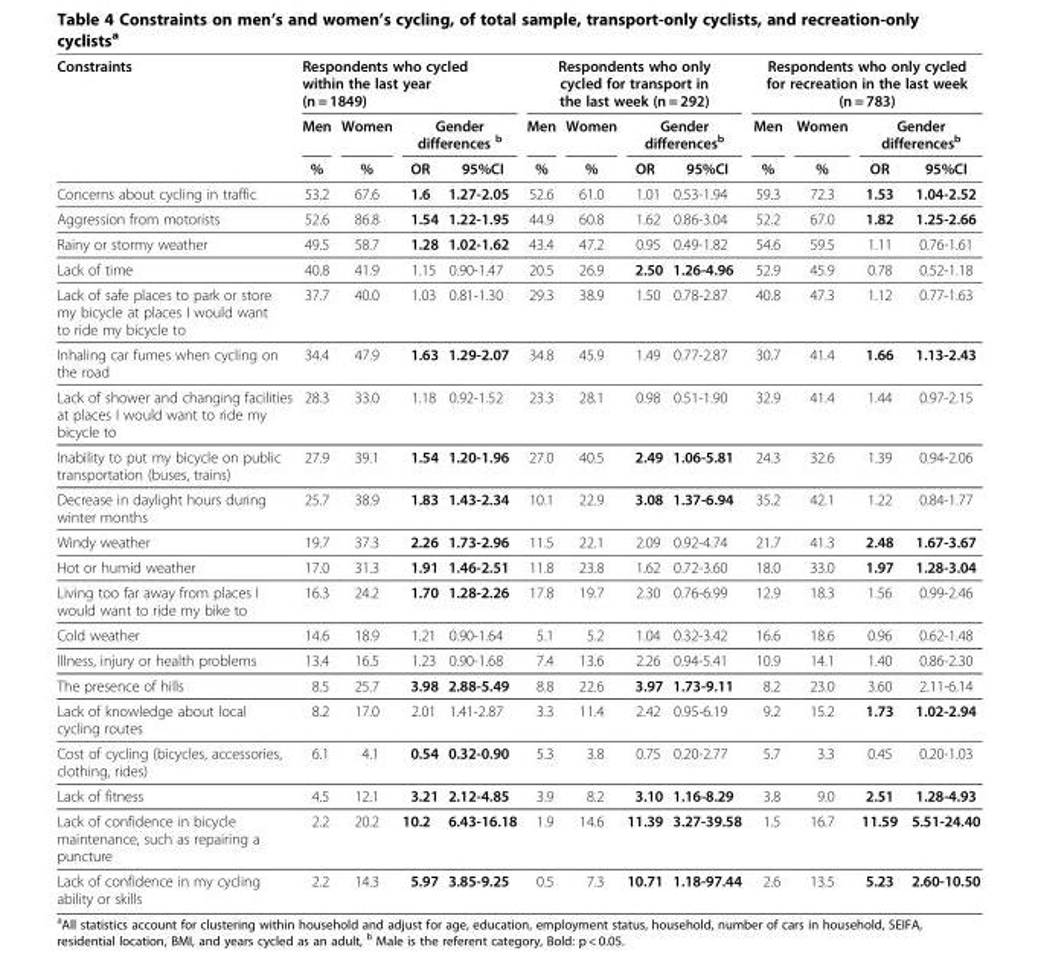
<table><thead><tr><td rowspan="3">Constraints</td><td colspan="4">Respondents who cycled within the last year (n = 1849)</td><td rowspan="3">Men %</td><td colspan="3">Respondents who only cycled for transport in the last week (n = 292)</td><td colspan="4">Respondents who only cycled for recreation in the last week (n = 783)</td></tr><tr><td rowspan="2">Men %</td><td rowspan="2">Women %</td><td colspan="2">Gender differences <sup>b</sup></td><td rowspan="2">Women %</td><td colspan="2">Gender differences<sup>b</sup></td><td rowspan="2">Men %</td><td rowspan="2">Women %</td><td colspan="2">Gender differences<sup>b</sup></td></tr><tr><td>OR</td><td>95%CI</td><td>OR</td><td>95%CI</td><td>OR</td><td>95%CI</td></tr></thead><tbody><tr><td>Concerns about cycling in traffic</td><td>53.2</td><td>67.6</td><td>1.6</td><td>1.27-2.05</td><td>52.6</td><td>61.0</td><td>1.01</td><td>0.53-1.94</td><td>59.3</td><td>72.3</td><td>1.53</td><td>1.04-2.52</td></tr><tr><td>Aggression from motorists</td><td>52.6</td><td>86.8</td><td>1.54</td><td>1.22-1.95</td><td>44.9</td><td>60.8</td><td>1.62</td><td>0.86-3.04</td><td>52.2</td><td>67.0</td><td>1.82</td><td>1.25-2.66</td></tr><tr><td>Rainy or stormy weather</td><td>49.5</td><td>58.7</td><td>1.28</td><td>1.02-1.62</td><td>43.4</td><td>47.2</td><td>0.95</td><td>0.49-1.82</td><td>54.6</td><td>59.5</td><td>1.11</td><td>0.76-1.61</td></tr><tr><td>Lack of time</td><td>40.8</td><td>41.9</td><td>1.15</td><td>0.90-1.47</td><td>20.5</td><td>26.9</td><td>2.50</td><td>1.26-4.96</td><td>52.9</td><td>45.9</td><td>0.78</td><td>0.52-1.18</td></tr><tr><td>Lack of safe places to park or store my bicycle at places I would want to ride my bicycle to</td><td>37.7</td><td>40.0</td><td>1.03</td><td>0.81-1.30</td><td>29.3</td><td>38.9</td><td>1.50</td><td>0.78-2.87</td><td>40.8</td><td>47.3</td><td>1.12</td><td>0.77-1.63</td></tr><tr><td>Inhaling car fumes when cycling on the road</td><td>34.4</td><td>47.9</td><td>1.63</td><td>1.29-2.07</td><td>34.8</td><td>45.9</td><td>1.49</td><td>0.77-2.87</td><td>30.7</td><td>41.4</td><td>1.66</td><td>1.13-2.43</td></tr><tr><td>Lack of shower and changing facilities at places I would want to ride my bicycle to</td><td>28.3</td><td>33.0</td><td>1.18</td><td>0.92-1.52</td><td>23.3</td><td>28.1</td><td>0.98</td><td>0.51-1.90</td><td>32.9</td><td>41.4</td><td>1.44</td><td>0.97-2.15</td></tr><tr><td>Inability to put my bicycle on public transportation (buses, trains)</td><td>27.9</td><td>39.1</td><td>1.54</td><td>1.20-1.96</td><td>27.0</td><td>40.5</td><td>2.49</td><td>1.06-5.81</td><td>24.3</td><td>32.6</td><td>1.39</td><td>0.94-2.06</td></tr><tr><td>Decrease in daylight hours during winter months</td><td>25.7</td><td>38.9</td><td>1.83</td><td>1.43-2.34</td><td>10.1</td><td>22.9</td><td>3.08</td><td>1.37-6.94</td><td>35.2</td><td>42.1</td><td>1.22</td><td>0.84-1.77</td></tr><tr><td>Windy weather</td><td>19.7</td><td>37.3</td><td>2.26</td><td>1.73-2.96</td><td>11.5</td><td>22.1</td><td>2.09</td><td>0.92-4.74</td><td>21.7</td><td>41.3</td><td>2.48</td><td>1.67-3.67</td></tr><tr><td>Hot or humid weather</td><td>17.0</td><td>31.3</td><td>1.91</td><td>1.46-2.51</td><td>11.8</td><td>23.8</td><td>1.62</td><td>0.72-3.60</td><td>18.0</td><td>33.0</td><td>1.97</td><td>1.28-3.04</td></tr><tr><td>Living too far away from places I would want to ride my bike to</td><td>16.3</td><td>24.2</td><td>1.70</td><td>1.28-2.26</td><td>17.8</td><td>19.7</td><td>2.30</td><td>0.76-6.99</td><td>12.9</td><td>18.3</td><td>1.56</td><td>0.99-2.46</td></tr><tr><td>Cold weather</td><td>14.6</td><td>18.9</td><td>1.21</td><td>0.90-1.64</td><td>5.1</td><td>5.2</td><td>1.04</td><td>0.32-3.42</td><td>16.6</td><td>18.6</td><td>0.96</td><td>0.62-1.48</td></tr><tr><td>Illness, injury or health problems</td><td>13.4</td><td>16.5</td><td>1.23</td><td>0.90-1.68</td><td>7.4</td><td>13.6</td><td>2.26</td><td>0.94-5.41</td><td>10.9</td><td>14.1</td><td>1.40</td><td>0.86-2.30</td></tr><tr><td>The presence of hills</td><td>8.5</td><td>25.7</td><td>3.98</td><td>2.88-5.49</td><td>8.8</td><td>22.6</td><td>3.97</td><td>1.73-9.11</td><td>8.2</td><td>23.0</td><td>3.60</td><td>2.11-6.14</td></tr><tr><td>Lack of knowledge about local cycling routes</td><td>8.2</td><td>17.0</td><td>2.01</td><td>1.41-2.87</td><td>3.3</td><td>11.4</td><td>2.42</td><td>0.95-6.19</td><td>9.2</td><td>15.2</td><td>1.73</td><td>1.02-2.94</td></tr><tr><td>Cost of cycling (bicycles, accessories, clothing, rides)</td><td>6.1</td><td>4.1</td><td>0.54</td><td>0.32-0.90</td><td>5.3</td><td>3.8</td><td>0.75</td><td>0.20-2.77</td><td>5.7</td><td>3.3</td><td>0.45</td><td>0.20-1.03</td></tr><tr><td>Lack of fitness</td><td>4.5</td><td>12.1</td><td>3.21</td><td>2.12-4.85</td><td>3.9</td><td>8.2</td><td>3.10</td><td>1.16-8.29</td><td>3.8</td><td>9.0</td><td>2.51</td><td>1.28-4.93</td></tr><tr><td>Lack of confidence in bicycle maintenance, such as repairing a puncture</td><td>2.2</td><td>20.2</td><td>10.2</td><td>6.43-16.18</td><td>1.9</td><td>14.6</td><td>11.39</td><td>3.27-39.58</td><td>1.5</td><td>16.7</td><td>11.59</td><td>5.51-24.40</td></tr><tr><td>Lack of confidence in my cycling ability or skills</td><td>2.2</td><td>14.3</td><td>5.97</td><td>3.85-9.25</td><td>0.5</td><td>7.3</td><td>10.71</td><td>1.18-97.44</td><td>2.6</td><td>13.5</td><td>5.23</td><td>2.60-10.50</td></tr></tbody></table>